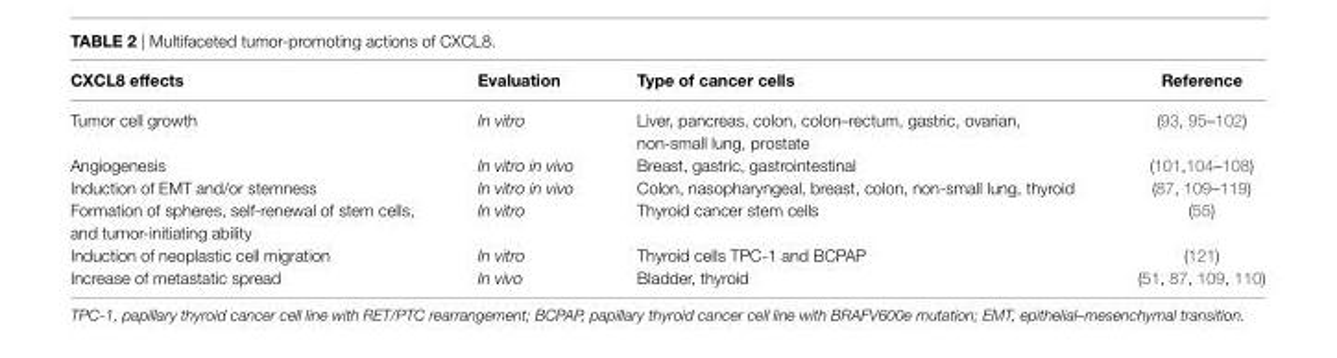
<table><thead><tr><td>CXCL8 effects</td><td>evaluation</td><td>Type of cancer cells</td><td>Reference</td></tr></thead><tbody><tr><td>Tumor cell growth</td><td>In vitro</td><td>Liver, pancreas, colon, colon–rectum, gastric, ovarian, non-small lung, prostate</td><td>(93, 95–102)</td></tr><tr><td>Angiogenesis</td><td>In vitro in vivo</td><td>Breast, gastric, gastrointestinal</td><td>(101,104–108)</td></tr><tr><td>Induction of EMT and/or stemness</td><td>In vitro in vivo</td><td>Colon, nasopharyngeal, breast, colon, non-small lung, thyroid</td><td>(87, 109–119)</td></tr><tr><td>Formation of spheres, self-renewal of stem cells, and tumor-initiating ability</td><td>In vitro</td><td>Thyroid cancer stem cells</td><td>(55)</td></tr><tr><td>Induction of neoplastic cell migration</td><td>In vitro</td><td>Thyroid cells TPC-1 and BCPAP</td><td>(121)</td></tr><tr><td>Increase of metastatic spread</td><td>In vivo</td><td>Bladder, thyroid</td><td>(51, 87, 109, 110)</td></tr></tbody></table>